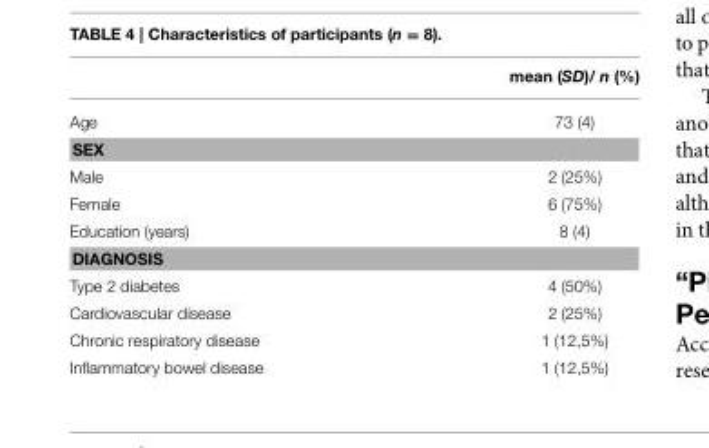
<table><thead><tr><td></td><td>mean (SD)/ n (%)</td></tr></thead><tbody><tr><td>Age</td><td>73 (4)</td></tr><tr><td colspan="2">SEX</td></tr><tr><td>Male</td><td>2 (25%)</td></tr><tr><td>Female</td><td>6 (75%)</td></tr><tr><td>Education (years)</td><td>8 (4)</td></tr><tr><td colspan="2">DIAGNOSIS</td></tr><tr><td>Type 2 diabetes</td><td>4 (50%)</td></tr><tr><td>Cardiovascular disease</td><td>2 (25%)</td></tr><tr><td>Chronic respiratory disease</td><td>1 (12,5%)</td></tr><tr><td>Inflammatory bowel disease</td><td>1 (12,5%)</td></tr></tbody></table>